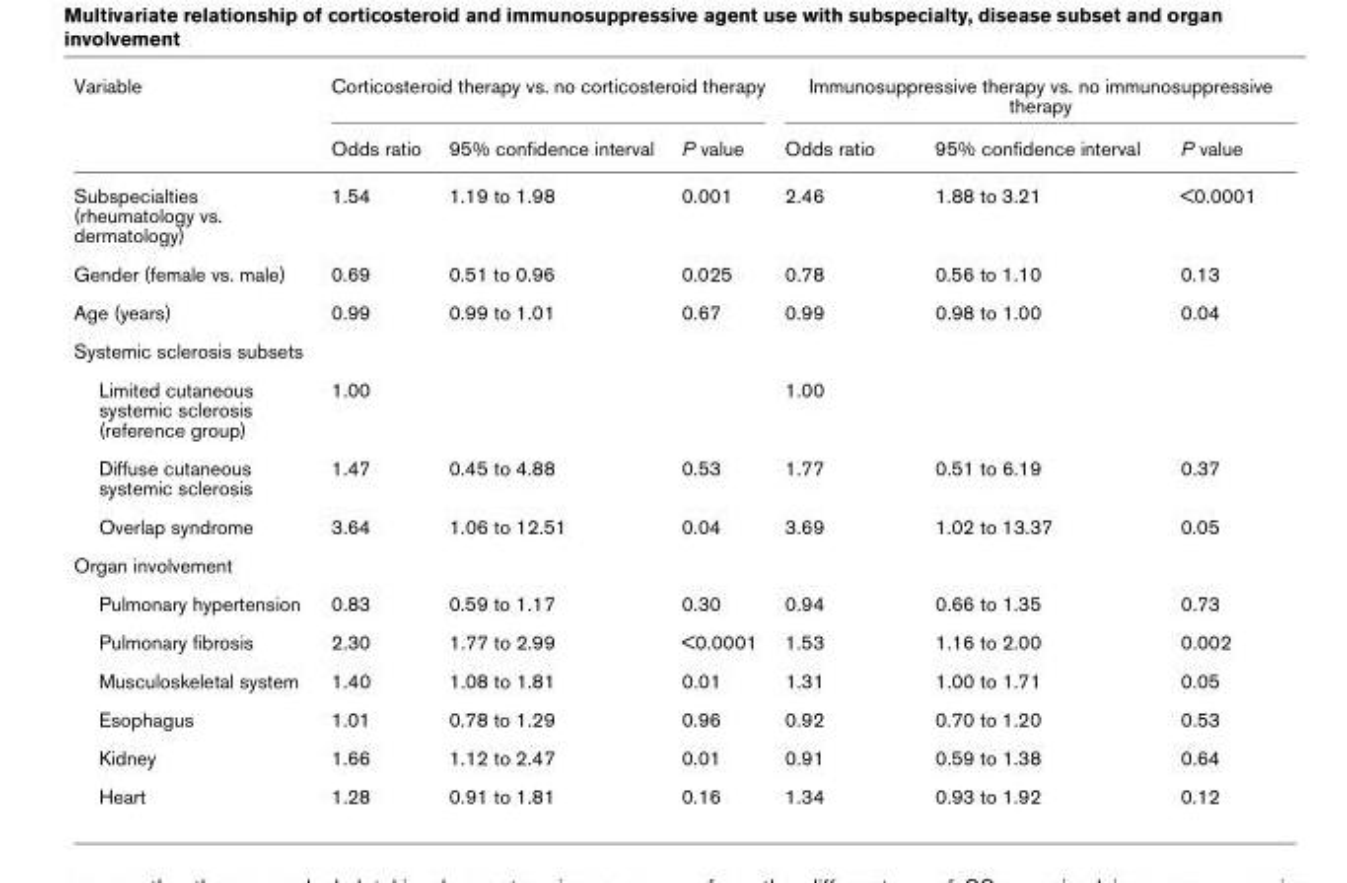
<table><thead><tr><td rowspan="2">Variable</td><td colspan="3">Corticosteroid therapy vs. no corticosteroid therapy</td><td colspan="3">Immunosuppressive therapy vs. no immunosuppressive therapy</td></tr><tr><td>Odds ratio</td><td>95% confidence interval</td><td>P value</td><td>Odds ratio</td><td>95% confidence interval</td><td>P value</td></tr></thead><tbody><tr><td>Subspecialties (rheumatology vs. dermatology)</td><td>1.54</td><td>1.19 to 1.98</td><td>0.001</td><td>2.46</td><td>1.88 to 3.21</td><td>&lt;0.0001</td></tr><tr><td>Gender (female vs. male)</td><td>0.69</td><td>0.51 to 0.96</td><td>0.025</td><td>0.78</td><td>0.56 to 1.10</td><td>0.13</td></tr><tr><td>Age (years)</td><td>0.99</td><td>0.99 to 1.01</td><td>0.67</td><td>0.99</td><td>0.98 to 1.00</td><td>0.04</td></tr><tr><td colspan="7">Systemic sclerosis subsets</td></tr><tr><td>Limited cutaneous systemic sclerosis (reference group)</td><td>1.00</td><td></td><td></td><td>1.00</td><td></td><td></td></tr><tr><td>Diffuse cutaneous systemic sclerosis</td><td>1.47</td><td>0.45 to 4.88</td><td>0.53</td><td>1.77</td><td>0.51 to 6.19</td><td>0.37</td></tr><tr><td>Overlap syndrome</td><td>3.64</td><td>1.06 to 12.51</td><td>0.04</td><td>3.69</td><td>1.02 to 13.37</td><td>0.05</td></tr><tr><td colspan="7">Organ involvement</td></tr><tr><td>Pulmonary hypertension</td><td>0.83</td><td>0.59 to 1.17</td><td>0.30</td><td>0.94</td><td>0.66 to 1.35</td><td>0.73</td></tr><tr><td>Pulmonary fibrosis</td><td>2.30</td><td>1.77 to 2.99</td><td>&lt;0.0001</td><td>1.53</td><td>1.16 to 2.00</td><td>0.002</td></tr><tr><td>Musculoskeletal system</td><td>1.40</td><td>1.08 to 1.81</td><td>0.01</td><td>1.31</td><td>1.00 to 1.71</td><td>0.05</td></tr><tr><td>Esophagus</td><td>1.01</td><td>0.78 to 1.29</td><td>0.96</td><td>0.92</td><td>0.70 to 1.20</td><td>0.53</td></tr><tr><td>Kidney</td><td>1.66</td><td>1.12 to 2.47</td><td>0.01</td><td>0.91</td><td>0.59 to 1.38</td><td>0.64</td></tr><tr><td>Heart</td><td>1.28</td><td>0.91 to 1.81</td><td>0.16</td><td>1.34</td><td>0.93 to 1.92</td><td>0.12</td></tr></tbody></table>